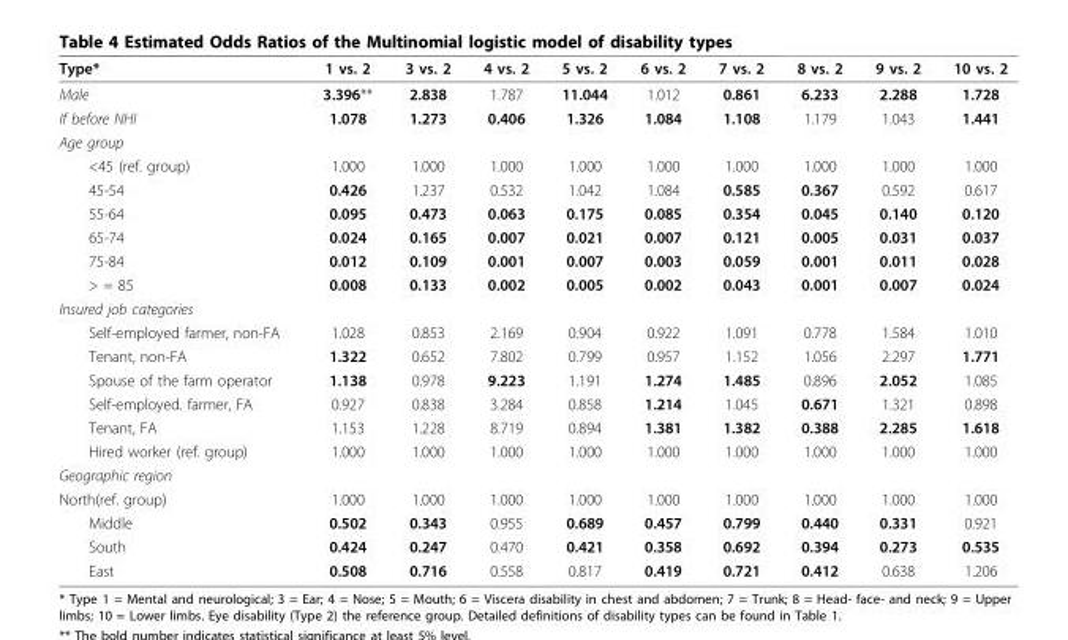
<table><thead><tr><td>Type*</td><td>1 vs. 2</td><td>3 vs. 2</td><td>4 vs. 2</td><td>5 vs. 2</td><td>6 vs. 2</td><td>7 vs. 2</td><td>8 vs. 2</td><td>9 vs. 2</td><td>10 vs. 2</td></tr></thead><tbody><tr><td>Male</td><td>3.396**</td><td>2.838</td><td>1.787</td><td>11.044</td><td>1.012</td><td>0.861</td><td>6.233</td><td>2.288</td><td>1.728</td></tr><tr><td>If before NHI</td><td>1.078</td><td>1.273</td><td>0.406</td><td>1.326</td><td>1.084</td><td>1.108</td><td>1.179</td><td>1.043</td><td>1.441</td></tr><tr><td colspan="10">Age group</td></tr><tr><td>&lt;45 (ref. group)</td><td>1.000</td><td>1.000</td><td>1.000</td><td>1.000</td><td>1.000</td><td>1.000</td><td>1.000</td><td>1.000</td><td>1.000</td></tr><tr><td>45-54</td><td>0.426</td><td>1.237</td><td>0.532</td><td>1.042</td><td>1.084</td><td>0.585</td><td>0.367</td><td>0.592</td><td>0.617</td></tr><tr><td>55-64</td><td>0.095</td><td>0.473</td><td>0.063</td><td>0.175</td><td>0.085</td><td>0.354</td><td>0.045</td><td>0.140</td><td>0.120</td></tr><tr><td>65-74</td><td>0.024</td><td>0.165</td><td>0.007</td><td>0.021</td><td>0.007</td><td>0.121</td><td>0.005</td><td>0.031</td><td>0.037</td></tr><tr><td>75-84</td><td>0.012</td><td>0.109</td><td>0.001</td><td>0.007</td><td>0.003</td><td>0.059</td><td>0.001</td><td>0.011</td><td>0.028</td></tr><tr><td>&gt; = 85</td><td>0.008</td><td>0.133</td><td>0.002</td><td>0.005</td><td>0.002</td><td>0.043</td><td>0.001</td><td>0.007</td><td>0.024</td></tr><tr><td colspan="10">Insured job categories</td></tr><tr><td>Self-employed farmer, non-FA</td><td>1.028</td><td>0.853</td><td>2.169</td><td>0.904</td><td>0.922</td><td>1.091</td><td>0.778</td><td>1.584</td><td>1.010</td></tr><tr><td>Tenant, non-FA</td><td>1.322</td><td>0.652</td><td>7.802</td><td>0.799</td><td>0.957</td><td>1.152</td><td>1.056</td><td>2.297</td><td>1.771</td></tr><tr><td>Spouse of the farm operator</td><td>1.138</td><td>0.978</td><td>9.223</td><td>1.191</td><td>1.274</td><td>1.485</td><td>0.896</td><td>2.052</td><td>1.085</td></tr><tr><td>Self-employed. farmer, FA</td><td>0.927</td><td>0.838</td><td>3.284</td><td>0.858</td><td>1.214</td><td>1.045</td><td>0.671</td><td>1.321</td><td>0.898</td></tr><tr><td>Tenant, FA</td><td>1.153</td><td>1.228</td><td>8.719</td><td>0.894</td><td>1.381</td><td>1.382</td><td>0.388</td><td>2.285</td><td>1.618</td></tr><tr><td>Hired worker (ref. group)</td><td>1.000</td><td>1.000</td><td>1.000</td><td>1.000</td><td>1.000</td><td>1.000</td><td>1.000</td><td>1.000</td><td>1.000</td></tr><tr><td colspan="10">Geographic region</td></tr><tr><td>North(ref. group)</td><td>1.000</td><td>1.000</td><td>1.000</td><td>1.000</td><td>1.000</td><td>1.000</td><td>1.000</td><td>1.000</td><td>1.000</td></tr><tr><td>Middle</td><td>0.502</td><td>0.343</td><td>0.955</td><td>0.689</td><td>0.457</td><td>0.799</td><td>0.440</td><td>0.331</td><td>0.921</td></tr><tr><td>South</td><td>0.424</td><td>0.247</td><td>0.470</td><td>0.421</td><td>0.358</td><td>0.692</td><td>0.394</td><td>0.273</td><td>0.535</td></tr><tr><td>East</td><td>0.508</td><td>0.716</td><td>0.558</td><td>0.817</td><td>0.419</td><td>0.721</td><td>0.412</td><td>0.638</td><td>1.206</td></tr></tbody></table>